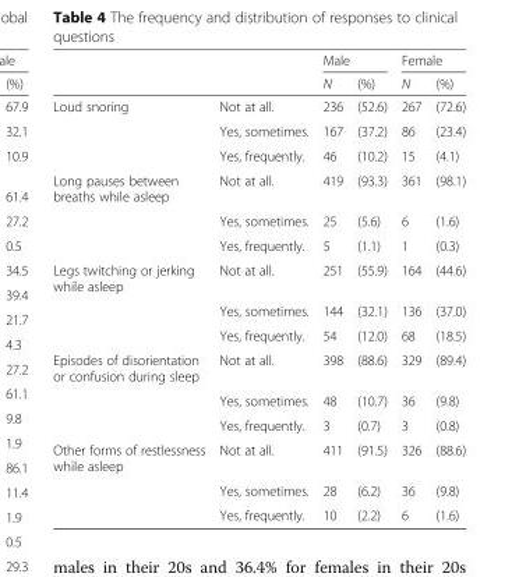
<table><thead><tr><td rowspan="2"></td><td rowspan="2"></td><td colspan="2">Male</td><td colspan="2">Female</td></tr><tr><td>N</td><td>(%)</td><td>N</td><td>(%)</td></tr></thead><tbody><tr><td rowspan="3">Loud snoring</td><td>Not at all.</td><td>236</td><td>(52.6)</td><td>267</td><td>(72.6)</td></tr><tr><td>Yes, sometimes.</td><td>167</td><td>(37.2)</td><td>86</td><td>(23.4)</td></tr><tr><td>Yes, frequently.</td><td>46</td><td>(10.2)</td><td>15</td><td>(4.1)</td></tr><tr><td rowspan="3">Long pauses between breaths while asleep</td><td>Not at all.</td><td>419</td><td>(93.3)</td><td>361</td><td>(98.1)</td></tr><tr><td>Yes, sometimes.</td><td>25</td><td>(5.6)</td><td>6</td><td>(1.6)</td></tr><tr><td>Yes, frequently.</td><td>5</td><td>(1.1)</td><td>1</td><td>(0.3)</td></tr><tr><td rowspan="3">Legs twitching or jerking while asleep</td><td>Not at all.</td><td>251</td><td>(55.9)</td><td>164</td><td>(44.6)</td></tr><tr><td>Yes, sometimes.</td><td>144</td><td>(32.1)</td><td>136</td><td>(37.0)</td></tr><tr><td>Yes, frequently.</td><td>54</td><td>(12.0)</td><td>68</td><td>(18.5)</td></tr><tr><td rowspan="3">Episodes of disorientation or confusion during sleep</td><td>Not at all.</td><td>398</td><td>(88.6)</td><td>329</td><td>(89.4)</td></tr><tr><td>Yes, sometimes.</td><td>48</td><td>(10.7)</td><td>36</td><td>(9.8)</td></tr><tr><td>Yes, frequently.</td><td>3</td><td>(0.7)</td><td>3</td><td>(0.8)</td></tr><tr><td rowspan="3">Other forms of restlessness while asleep</td><td>Not at all.</td><td>411</td><td>(91.5)</td><td>326</td><td>(88.6)</td></tr><tr><td>Yes, sometimes.</td><td>28</td><td>(6.2)</td><td>36</td><td>(9.8)</td></tr><tr><td>Yes, frequently.</td><td>10</td><td>(2.2)</td><td>6</td><td>(1.6)</td></tr></tbody></table>